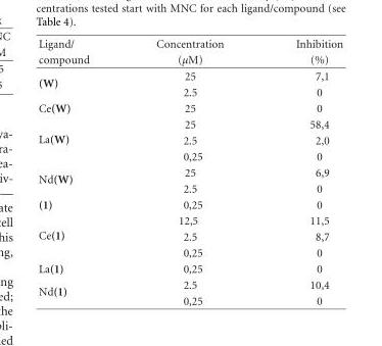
<table><tbody><tr><td>Ligand/</td><td>Concentration</td><td>Inhibition</td></tr><tr><td>compound</td><td>(μM)</td><td>(%)</td></tr><tr><td rowspan="2">(W)</td><td>25</td><td>7,1</td></tr><tr><td>2.5</td><td>0</td></tr><tr><td>Ce(W)</td><td>25</td><td>0</td></tr><tr><td rowspan="3">La(W)</td><td>25</td><td>58,4</td></tr><tr><td>2.5</td><td>2,0</td></tr><tr><td>0,25</td><td>0</td></tr><tr><td rowspan="2">Nd(W)</td><td>25</td><td>6,9</td></tr><tr><td>2.5</td><td>0</td></tr><tr><td>(1)</td><td>0,25</td><td>0</td></tr><tr><td rowspan="3">Ce(1)</td><td>12,5</td><td>11,5</td></tr><tr><td>2.5</td><td>8,7</td></tr><tr><td>0,25</td><td>0</td></tr><tr><td>La(1)</td><td>0,25</td><td>0</td></tr><tr><td rowspan="2">Nd(1)</td><td>2.5</td><td>10,4</td></tr><tr><td>0,25</td><td>0</td></tr></tbody></table>